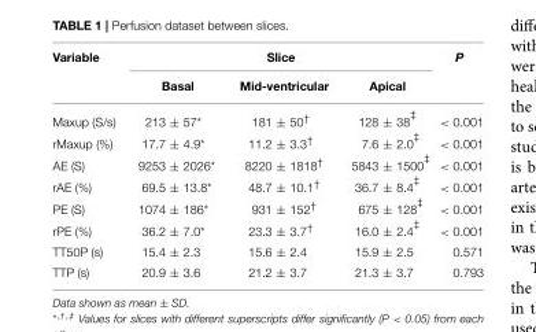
<table><thead><tr><td rowspan="2">Variable</td><td colspan="3">Slice</td><td rowspan="2">P</td></tr><tr><td>Basal</td><td>Mid-ventricular</td><td>Apical</td></tr></thead><tbody><tr><td>Maxup (S/s)</td><td>213 ± 57*</td><td>181 ± 50<sup>†</sup></td><td>128 ± 38<sup>‡</sup></td><td>&lt; 0.001</td></tr><tr><td>rMaxup (%)</td><td>17.7 ± 4.9*</td><td>11.2 ± 3.3<sup>†</sup></td><td>7.6 ± 2.0<sup>‡</sup></td><td>&lt; 0.001</td></tr><tr><td>AE (S)</td><td>9253 ± 2026*</td><td>8220 ± 1818<sup>†</sup></td><td>5843 ± 1500<sup>‡</sup></td><td>&lt; 0.001</td></tr><tr><td>rAE (%)</td><td>69.5 ± 13.8*</td><td>48.7 ± 10.1<sup>†</sup></td><td>36.7 ± 8.4<sup>‡</sup></td><td>&lt; 0.001</td></tr><tr><td>PE (S)</td><td>1074 ± 186*</td><td>931 ± 152<sup>†</sup></td><td>675 ± 128<sup>‡</sup></td><td>&lt; 0.001</td></tr><tr><td>rPE (%)</td><td>36.2 ± 7.0*</td><td>23.3 ± 3.7<sup>†</sup></td><td>16.0 ± 2.4<sup>‡</sup></td><td>&lt; 0.001</td></tr><tr><td>TT50P (s)</td><td>15.4 ± 2.3</td><td>15.6 ± 2.4</td><td>15.9 ± 2.5</td><td>0.571</td></tr><tr><td>TTP (s)</td><td>20.9 ± 3.6</td><td>21.2 ± 3.7</td><td>21.3 ± 3.7</td><td>0.793</td></tr></tbody></table>